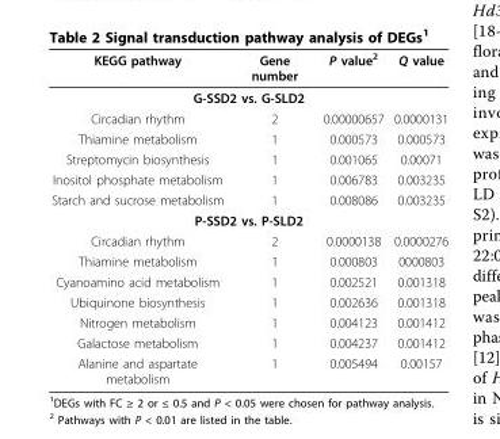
<table><thead><tr><td>KEGG pathway</td><td>Gene number</td><td>P value<sup>2</sup></td><td>Q value</td></tr></thead><tbody><tr><td colspan="4">G-SSD2 vs. G-SLD2</td></tr><tr><td>Circadian rhythm</td><td>2</td><td>0.00000657</td><td>0.0000131</td></tr><tr><td>Thiamine metabolism</td><td>1</td><td>0.000573</td><td>0.000573</td></tr><tr><td>Streptomycin biosynthesis</td><td>1</td><td>0.001065</td><td>0.00071</td></tr><tr><td>Inositol phosphate metabolism</td><td>1</td><td>0.006783</td><td>0.003235</td></tr><tr><td>Starch and sucrose metabolism</td><td>1</td><td>0.008086</td><td>0.003235</td></tr><tr><td colspan="4">P-SSD2 vs. P-SLD2</td></tr><tr><td>Circadian rhythm</td><td>2</td><td>0.0000138</td><td>0.0000276</td></tr><tr><td>Thiamine metabolism</td><td>1</td><td>0.000803</td><td>0000803</td></tr><tr><td>Cyanoamino acid metabolism</td><td>1</td><td>0.002521</td><td>0.001318</td></tr><tr><td>Ubiquinone biosynthesis</td><td>1</td><td>0.002636</td><td>0.001318</td></tr><tr><td>Nitrogen metabolism</td><td>1</td><td>0.004123</td><td>0.001412</td></tr><tr><td>Galactose metabolism</td><td>1</td><td>0.004237</td><td>0.001412</td></tr><tr><td>Alanine and aspartate metabolism</td><td>1</td><td>0.005494</td><td>0.00157</td></tr></tbody></table>